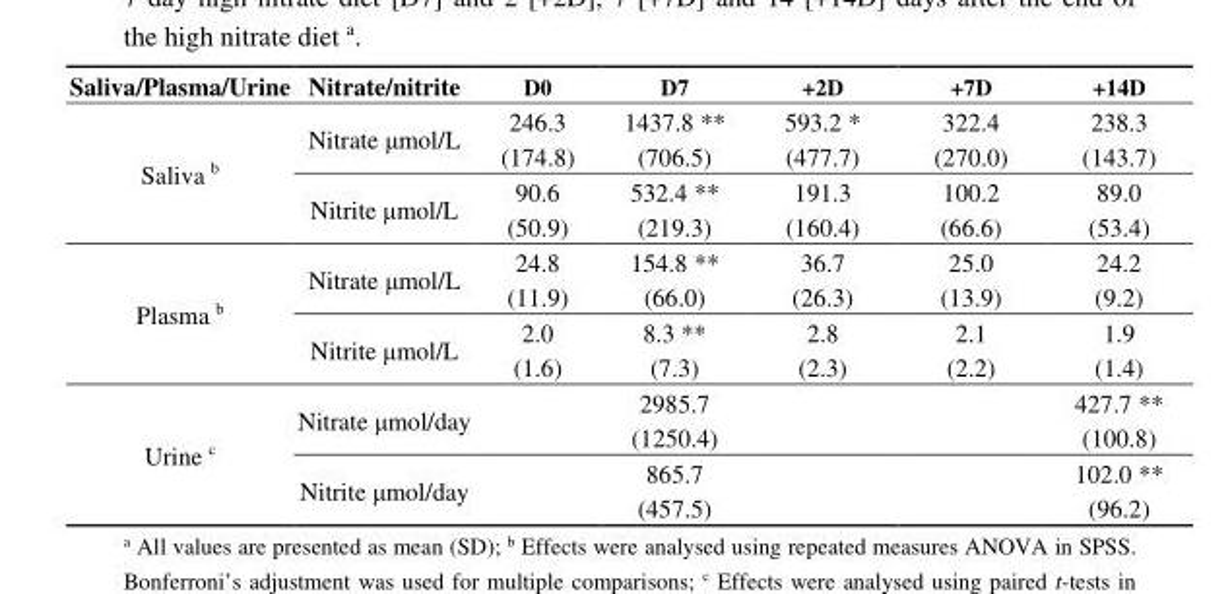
<table><thead><tr><td>Saliva/Plasma/Urine</td><td>Nitrate/nitrite</td><td>D0</td><td>D7</td><td>+2D</td><td>+7D</td><td>+14D</td></tr></thead><tbody><tr><td rowspan="2">Saliva <sup>b</sup></td><td>Nitrate μmol/L</td><td>246.3 (174.8)</td><td>1437.8 ** (706.5)</td><td>593.2 * (477.7)</td><td>322.4 (270.0)</td><td>238.3 (143.7)</td></tr><tr><td>Nitrite μmol/L</td><td>90.6 (50.9)</td><td>532.4 ** (219.3)</td><td>191.3 (160.4)</td><td>100.2 (66.6)</td><td>89.0 (53.4)</td></tr><tr><td rowspan="2">Plasma <sup>b</sup></td><td>Nitrate μmol/L</td><td>24.8 (11.9)</td><td>154.8 ** (66.0)</td><td>36.7 (26.3)</td><td>25.0 (13.9)</td><td>24.2 (9.2)</td></tr><tr><td>Nitrite μmol/L</td><td>2.0 (1.6)</td><td>8.3 ** (7.3)</td><td>2.8 (2.3)</td><td>2.1 (2.2)</td><td>1.9 (1.4)</td></tr><tr><td rowspan="2">Urine <sup>c</sup></td><td>Nitrate μmol/day</td><td></td><td>2985.7 (1250.4)</td><td></td><td></td><td>427.7 ** (100.8)</td></tr><tr><td>Nitrite μmol/day</td><td></td><td>865.7 (457.5)</td><td></td><td></td><td>102.0 ** (96.2)</td></tr></tbody></table>